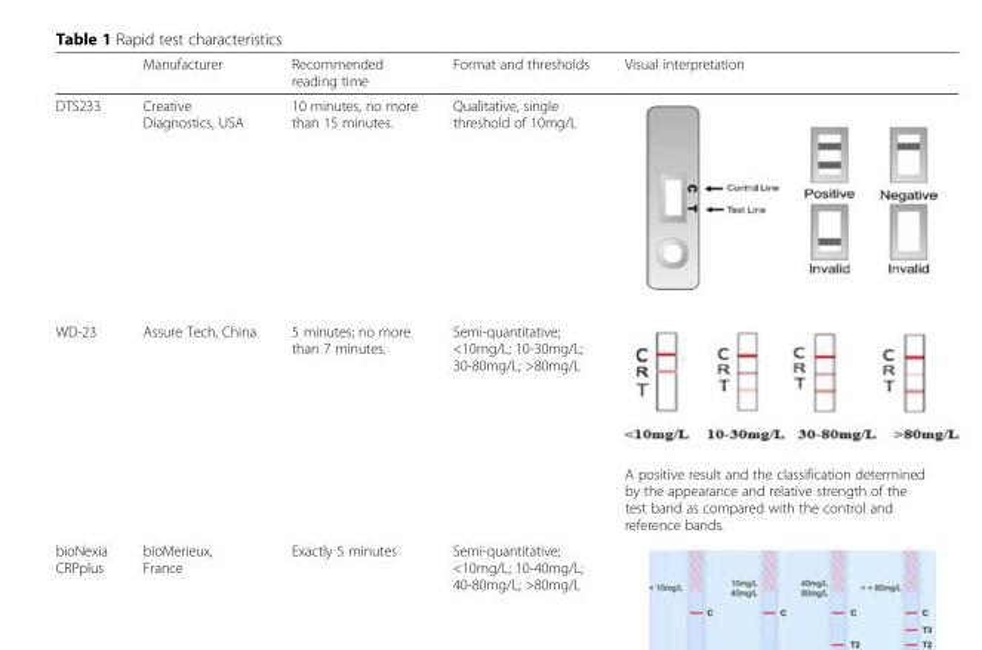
<table><thead><tr><td></td><td>Manufacturer</td><td>Recommended reading time</td><td>Format and thresholds</td><td>Visual interpretation</td></tr></thead><tbody><tr><td>DTS233</td><td>Creative Diagnostics, USA</td><td>10 minutes, no more than 15 minutes.</td><td>Qualitative, single threshold of 10mg/L</td><td></td></tr><tr><td rowspan="2">WD-23</td><td>Assure Tech, China</td><td>5 minutes; no more than 7 minutes.</td><td>Semi-quantitative; &lt;10mg/L; 10-30mg/L; 30-80mg/L; &gt;80mg/L</td><td></td></tr><tr><td></td><td></td><td></td><td>A positive result and the classification determined by the appearance and relative strength of the test band as compared with the control and reference bands.</td></tr><tr><td>bioNexia CRPplus</td><td>bioMerieux, France</td><td>Exactly 5 minutes</td><td>Semi-quantitative; &lt;10mg/L; 10-40mg/L; 40-80mg/L; &gt;80mg/L</td><td></td></tr></tbody></table>